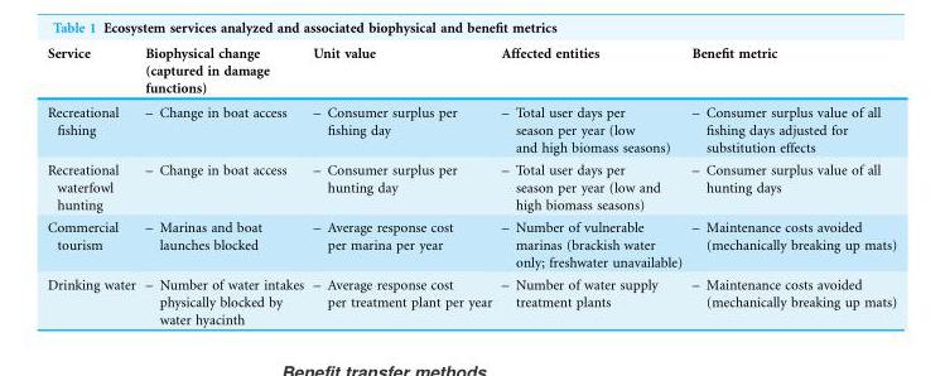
<table><thead><tr><td>Service</td><td>Biophysical change (captured in damage functions)</td><td>Unit value</td><td>Affected entities</td><td>Benefit metric</td></tr></thead><tbody><tr><td>Recreational fishing</td><td>– Change in boat access</td><td>– Consumer surplus per fishing day</td><td>– Total user days per season per year (low and high biomass seasons)</td><td>– Consumer surplus value of all fishing days adjusted for substitution effects</td></tr><tr><td>Recreational waterfowl hunting</td><td>– Change in boat access</td><td>– Consumer surplus per hunting day</td><td>– Total user days per season per year (low and high biomass seasons)</td><td>– Consumer surplus value of all hunting days</td></tr><tr><td>Commercial tourism</td><td>– Marinas and boat launches blocked</td><td>– Average response cost per marina per year</td><td>– Number of vulnerable marinas (brackish water only; freshwater unavailable)</td><td>– Maintenance costs avoided (mechanically breaking up mats)</td></tr><tr><td>Drinking water</td><td>– Number of water intakes physically blocked by water hyacinth</td><td>– Average response cost per treatment plant per year</td><td>– Number of water supply treatment plants</td><td>– Maintenance costs avoided (mechanically breaking up mats)</td></tr></tbody></table>